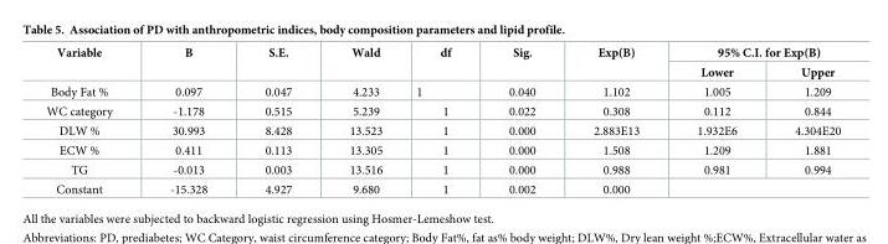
<table><thead><tr><td rowspan="2">Variable</td><td rowspan="2">B</td><td rowspan="2">S.E.</td><td rowspan="2">Wald</td><td rowspan="2">df</td><td rowspan="2">Sig.</td><td rowspan="2">Exp(B)</td><td colspan="2">95% C.I. for Exp(B)</td></tr><tr><td>Lower</td><td>Upper</td></tr></thead><tbody><tr><td>Body Fat %</td><td>0.097</td><td>0.047</td><td>4.233</td><td>1</td><td>0.040</td><td>1.102</td><td>1.005</td><td>1.209</td></tr><tr><td>WC category</td><td>-1.178</td><td>0.515</td><td>5.239</td><td>1</td><td>0.022</td><td>0.308</td><td>0.112</td><td>0.844</td></tr><tr><td>DLW %</td><td>30.993</td><td>8.428</td><td>13.523</td><td>1</td><td>0.000</td><td>2.883E13</td><td>1.932E6</td><td>4.304E20</td></tr><tr><td>ECW %</td><td>0.411</td><td>0.113</td><td>13.305</td><td>1</td><td>0.000</td><td>1.508</td><td>1.209</td><td>1.881</td></tr><tr><td>TG</td><td>-0.013</td><td>0.003</td><td>13.516</td><td>1</td><td>0.000</td><td>0.988</td><td>0.981</td><td>0.994</td></tr><tr><td>Constant</td><td>-15.328</td><td>4.927</td><td>9.680</td><td>1</td><td>0.002</td><td>0.000</td><td colspan="2"></td></tr></tbody></table>